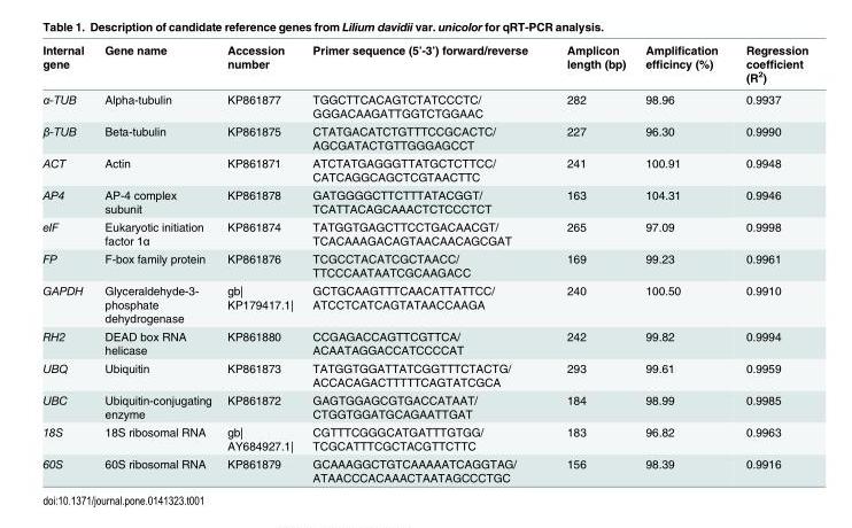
<table><thead><tr><td>Internal gene</td><td>Gene name</td><td>Accession number</td><td>Primer sequence (5’-3’) forward/reverse</td><td>Amplicon length (bp)</td><td>Amplification efficincy (%)</td><td>Regression coefficient (R<sup>2</sup>)</td></tr></thead><tbody><tr><td>α-TUB</td><td>Alpha-tubulin</td><td>KP861877</td><td>TGGCTTCACAGTCTATCCCTC/ GGGACAAGATTGGTCTGGAAC</td><td>282</td><td>98.96</td><td>0.9937</td></tr><tr><td>β-TUB</td><td>Beta-tubulin</td><td>KP861875</td><td>CTATGACATCTGTTTCCGCACTC/ AGCGATACTGTTGGGAGCCT</td><td>227</td><td>96.30</td><td>0.9990</td></tr><tr><td>ACT</td><td>Actin</td><td>KP861871</td><td>ATCTATGAGGGTTATGCTCTTCC/ CATCAGGCAGCTCGTAACTTC</td><td>241</td><td>100.91</td><td>0.9948</td></tr><tr><td>AP4</td><td>AP-4 complex subunit</td><td>KP861878</td><td>GATGGGGCTTCTTTATACGGT/ TCATTACAGCAAACTCTCCCTCT</td><td>163</td><td>104.31</td><td>0.9946</td></tr><tr><td>eIF</td><td>Eukaryotic initiation factor 1α</td><td>KP861874</td><td>TATGGTGAGCTTCCTGACAACGT/ TCACAAAGACAGTAACAACAGCGAT</td><td>265</td><td>97.09</td><td>0.9998</td></tr><tr><td>FP</td><td>F-box family protein</td><td>KP861876</td><td>TCGCCTACATCGCTAACC/ TTCCCAATAATCGCAAGACC</td><td>169</td><td>99.23</td><td>0.9961</td></tr><tr><td>GAPDH</td><td>Glyceraldehyde-3- phosphate dehydrogenase</td><td>gb| KP179417.1|</td><td>GCTGCAAGTTTCAACATTATTCC/ ATCCTCATCAGTATAACCAAGA</td><td>240</td><td>100.50</td><td>0.9910</td></tr><tr><td>RH2</td><td>DEAD box RNA helicase</td><td>KP861880</td><td>CCGAGACCAGTTCGTTCA/ ACAATAGGACCATCCCCAT</td><td>242</td><td>99.82</td><td>0.9994</td></tr><tr><td>UBQ</td><td>Ubiquitin</td><td>KP861873</td><td>TATGGTGGATTATCGGTTTCTACTG/ ACCACAGACTTTTTCAGTATCGCA</td><td>293</td><td>99.61</td><td>0.9959</td></tr><tr><td>UBC</td><td>Ubiquitin-conjugating enzyme</td><td>KP861872</td><td>GAGTGGAGCGTGACCATAAT/ CTGGTGGATGCAGAATTGAT</td><td>184</td><td>98.99</td><td>0.9985</td></tr><tr><td>18S</td><td>18S ribosomal RNA</td><td>gb| AY684927.1|</td><td>CGTTTCGGGCATGATTTGTGG/ TCGCATTTCGCTACGTTCTTC</td><td>183</td><td>96.82</td><td>0.9963</td></tr><tr><td>60S</td><td>60S ribosomal RNA</td><td>KP861879</td><td>GCAAAGGCTGTCAAAAATCAGGTAG/ ATAACCCACAAACTAATAGCCCTGC</td><td>156</td><td>98.39</td><td>0.9916</td></tr></tbody></table>